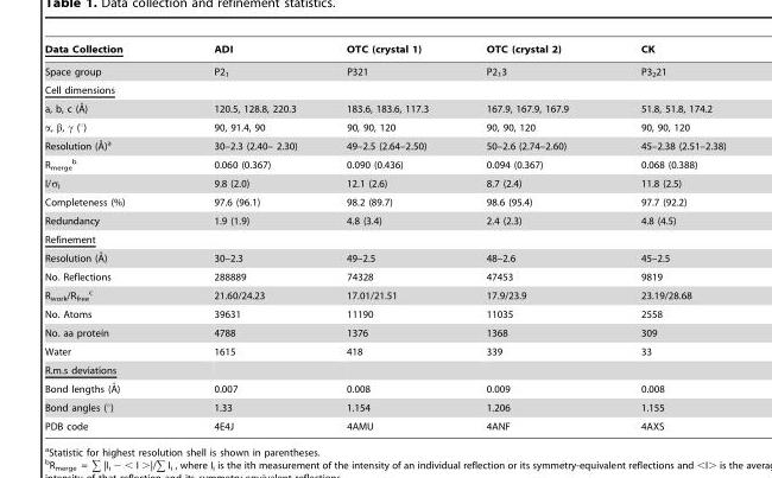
<table><thead><tr><td>Data Collection</td><td>ADI</td><td>OTC (crystal 1)</td><td>OTC (crystal 2)</td><td>CK</td></tr></thead><tbody><tr><td>Space group</td><td>P2<sub>1</sub></td><td>P321</td><td>P2<sub>1</sub>3</td><td>P3<sub>2</sub>21</td></tr><tr><td colspan="5">Cell dimensions</td></tr><tr><td>a, b, c (A˚)</td><td>120.5, 128.8, 220.3</td><td>183.6, 183.6, 117.3</td><td>167.9, 167.9, 167.9</td><td>51.8, 51.8, 174.2</td></tr><tr><td>α, β, γ (°)</td><td>90, 91.4, 90</td><td>90, 90, 120</td><td>90, 90, 120</td><td>90, 90, 120</td></tr><tr><td>Resolution (A˚)a</td><td>30–2.3 (2.40– 2.30)</td><td>49–2.5 (2.64–2.50)</td><td>50–2.6 (2.74–2.60)</td><td>45–2.38 (2.51–2.38)</td></tr><tr><td>R<sub>merge</sub> b</td><td>0.060 (0.367)</td><td>0.090 (0.436)</td><td>0.094 (0.367)</td><td>0.068 (0.388)</td></tr><tr><td>I/σ<sub>I</sub></td><td>9.8 (2.0)</td><td>12.1 (2.6)</td><td>8.7 (2.4)</td><td>11.8 (2.5)</td></tr><tr><td>Completeness (%)</td><td>97.6 (96.1)</td><td>98.2 (89.7)</td><td>98.6 (95.4)</td><td>97.7 (92.2)</td></tr><tr><td>Redundancy</td><td>1.9 (1.9)</td><td>4.8 (3.4)</td><td>2.4 (2.3)</td><td>4.8 (4.5)</td></tr><tr><td colspan="5">Refinement</td></tr><tr><td>Resolution (A˚)</td><td>30–2.3</td><td>49–2.5</td><td>48–2.6</td><td>45–2.5</td></tr><tr><td>No. Reflections</td><td>288889</td><td>74328</td><td>47453</td><td>9819</td></tr><tr><td>R<sub>work</sub>/R<sub>free</sub> c</td><td>21.60/24.23</td><td>17.01/21.51</td><td>17.9/23.9</td><td>23.19/28.68</td></tr><tr><td>No. Atoms</td><td>39631</td><td>11190</td><td>11035</td><td>2558</td></tr><tr><td>No. aa protein</td><td>4788</td><td>1376</td><td>1368</td><td>309</td></tr><tr><td>Water</td><td>1615</td><td>418</td><td>339</td><td>33</td></tr><tr><td colspan="5">R.m.s deviations</td></tr><tr><td>Bond lengths (A˚)</td><td>0.007</td><td>0.008</td><td>0.009</td><td>0.008</td></tr><tr><td>Bond angles (°)</td><td>1.33</td><td>1.154</td><td>1.206</td><td>1.155</td></tr><tr><td>PDB code</td><td>4E4J</td><td>4AMU</td><td>4ANF</td><td>4AXS</td></tr></tbody></table>